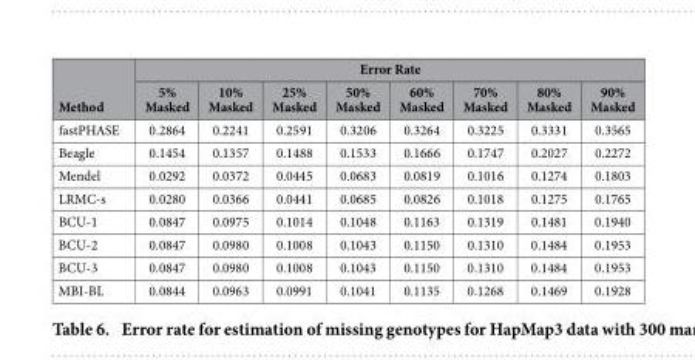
<table><thead><tr><td rowspan="2">Method</td><td colspan="8">Error Rate</td></tr><tr><td>5% Masked</td><td>10% Masked</td><td>25% Masked</td><td>50% Masked</td><td>60% Masked</td><td>70% Masked</td><td>80% Masked</td><td>90% Masked</td></tr></thead><tbody><tr><td>fastPHASE</td><td>0.2864</td><td>0.2241</td><td>0.2591</td><td>0.3206</td><td>0.3264</td><td>0.3225</td><td>0.3331</td><td>0.3565</td></tr><tr><td>Beagle</td><td>0.1454</td><td>0.1357</td><td>0.1488</td><td>0.1533</td><td>0.1666</td><td>0.1747</td><td>0.2027</td><td>0.2272</td></tr><tr><td>Mendel</td><td>0.0292</td><td>0.0372</td><td>0.0445</td><td>0.0683</td><td>0.0819</td><td>0.1016</td><td>0.1274</td><td>0.1803</td></tr><tr><td>LRMC-s</td><td>0.0280</td><td>0.0366</td><td>0.0441</td><td>0.0685</td><td>0.0826</td><td>0.1018</td><td>0.1275</td><td>0.1765</td></tr><tr><td>BCU-1</td><td>0.0847</td><td>0.0975</td><td>0.1014</td><td>0.1048</td><td>0.1163</td><td>0.1319</td><td>0.1481</td><td>0.1940</td></tr><tr><td>BCU-2</td><td>0.0847</td><td>0.0980</td><td>0.1008</td><td>0.1043</td><td>0.1150</td><td>0.1310</td><td>0.1484</td><td>0.1953</td></tr><tr><td>BCU-3</td><td>0.0847</td><td>0.0980</td><td>0.1008</td><td>0.1043</td><td>0.1150</td><td>0.1310</td><td>0.1484</td><td>0.1953</td></tr><tr><td>MBI-BL</td><td>0.0844</td><td>0.0963</td><td>0.0991</td><td>0.1041</td><td>0.1135</td><td>0.1268</td><td>0.1469</td><td>0.1928</td></tr></tbody></table>